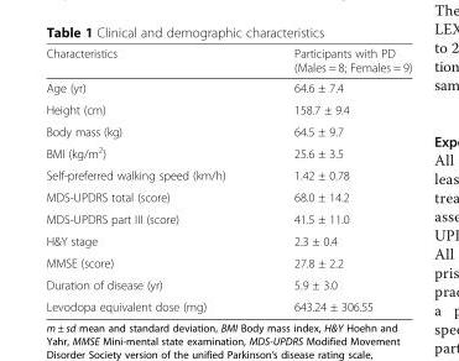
<table><thead><tr><td>Characteristics</td><td>Participants with PD (Males = 8; Females = 9)</td></tr></thead><tbody><tr><td>Age (yr)</td><td>64.6 ± 7.4</td></tr><tr><td>Height (cm)</td><td>158.7 ± 9.4</td></tr><tr><td>Body mass (kg)</td><td>64.5 ± 9.7</td></tr><tr><td>BMI (kg/m<sup>2</sup>)</td><td>25.6 ± 3.5</td></tr><tr><td>Self-preferred walking speed (km/h)</td><td>1.42 ± 0.78</td></tr><tr><td>MDS-UPDRS total (score)</td><td>68.0 ± 14.2</td></tr><tr><td>MDS-UPDRS part III (score)</td><td>41.5 ± 11.0</td></tr><tr><td>H&amp;Y stage</td><td>2.3 ± 0.4</td></tr><tr><td>MMSE (score)</td><td>27.8 ± 2.2</td></tr><tr><td>Duration of disease (yr)</td><td>5.9 ± 3.0</td></tr><tr><td>Levodopa equivalent dose (mg)</td><td>643.24 ± 306.55</td></tr></tbody></table>